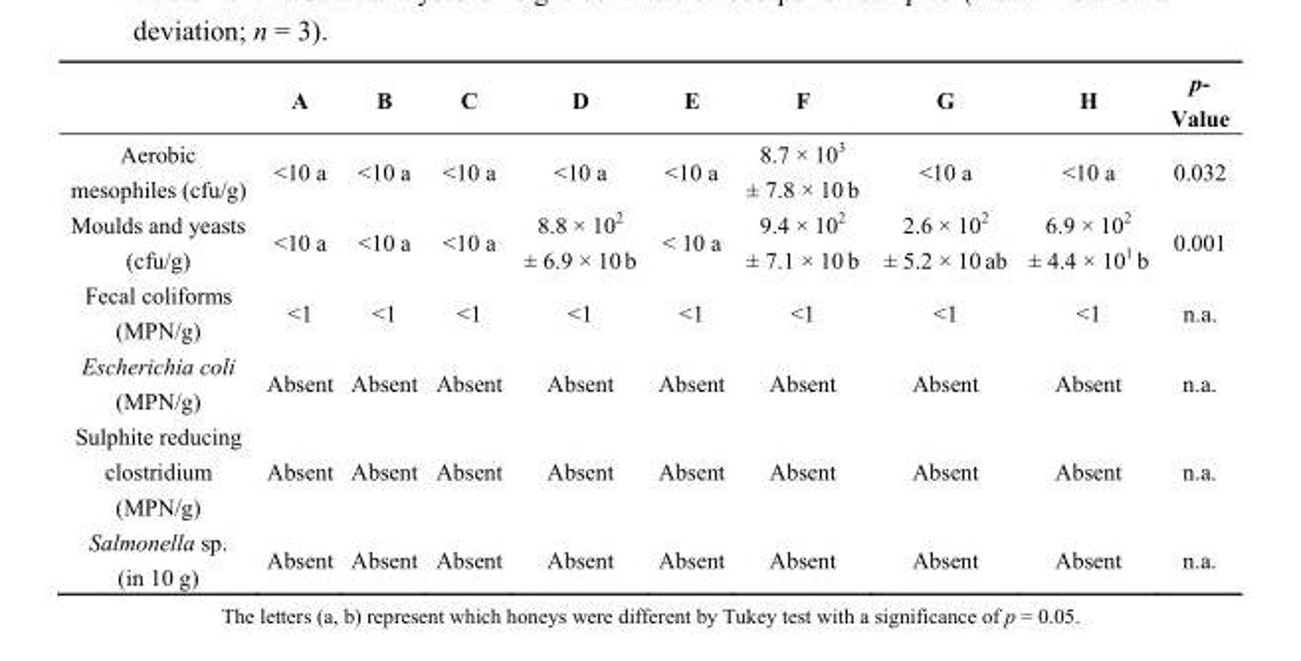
<table><thead><tr><td></td><td>A</td><td>B</td><td>C</td><td>D</td><td>E</td><td>F</td><td>G</td><td>H</td><td>p- Value</td></tr></thead><tbody><tr><td>Aerobic mesophiles (cfu/g)</td><td>&lt;10 a</td><td>&lt;10 a</td><td>&lt;10 a</td><td>&lt;10 a</td><td>&lt;10 a</td><td>8.7 × 10<sup>3</sup> ± 7.8 × 10 b</td><td>&lt;10 a</td><td>&lt;10 a</td><td>0.032</td></tr><tr><td>Moulds and yeasts (cfu/g)</td><td>&lt;10 a</td><td>&lt;10 a</td><td>&lt;10 a</td><td>8.8 × 10<sup>2</sup> ± 6.9 × 10 b</td><td>&lt; 10 a</td><td>9.4 × 10<sup>2</sup> ± 7.1 × 10 b</td><td>2.6 × 10<sup>2</sup> ± 5.2 × 10 ab</td><td>6.9 × 10<sup>2</sup> ± 4.4 × 10<sup>1</sup> b</td><td>0.001</td></tr><tr><td>Fecal coliforms (MPN/g)</td><td>&lt;1</td><td>&lt;1</td><td>&lt;1</td><td>&lt;1</td><td>&lt;1</td><td>&lt;1</td><td>&lt;1</td><td>&lt;1</td><td>n.a.</td></tr><tr><td>Escherichia coli (MPN/g)</td><td>Absent</td><td>Absent</td><td>Absent</td><td>Absent</td><td>Absent</td><td>Absent</td><td>Absent</td><td>Absent</td><td>n.a.</td></tr><tr><td>Sulphite reducing clostridium (MPN/g)</td><td>Absent</td><td>Absent</td><td>Absent</td><td>Absent</td><td>Absent</td><td>Absent</td><td>Absent</td><td>Absent</td><td>n.a.</td></tr><tr><td>Salmonella sp. (in 10 g)</td><td>Absent</td><td>Absent</td><td>Absent</td><td>Absent</td><td>Absent</td><td>Absent</td><td>Absent</td><td>Absent</td><td>n.a.</td></tr></tbody></table>